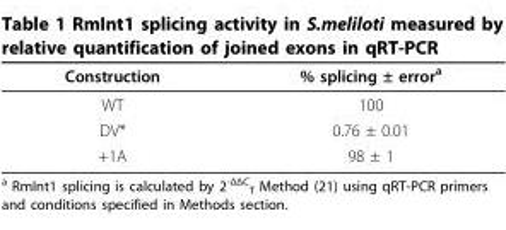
<table><thead><tr><td>Construction</td><td>% splicing ± error<sup>a</sup></td></tr></thead><tbody><tr><td>WT</td><td>100</td></tr><tr><td>DV*</td><td>0.76 ± 0.01</td></tr><tr><td>+1A</td><td>98 ± 1</td></tr></tbody></table>